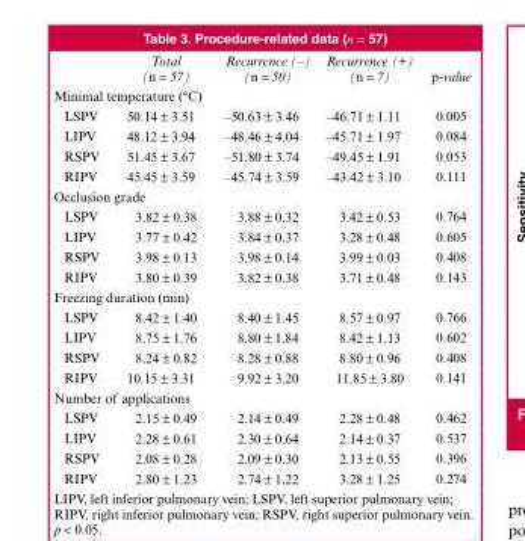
<table><thead><tr><td></td><td>Total (n = 57)</td><td>Recurrence (–) (n = 50)</td><td>Recurrence (+) (n = 7)</td><td>p-value</td></tr></thead><tbody><tr><td colspan="5">Minimal temperature (°C)</td></tr><tr><td>LSPV</td><td>50.14 ± 3.51</td><td>–50.63 ± 3.46</td><td>–46.71 ± 1.11</td><td>0.005</td></tr><tr><td>LIPV</td><td>48.12 ± 3.94</td><td>–48.46 ± 4.04</td><td>–45.71 ± 1.97</td><td>0.084</td></tr><tr><td>RSPV</td><td>51.45 ± 3.67</td><td>–51.80 ± 3.74</td><td>–49.45 ± 1.91</td><td>0.053</td></tr><tr><td>RIPV</td><td>45.45 ± 3.59</td><td>–45.74 ± 3.59</td><td>–43.42 ± 3.10</td><td>0.111</td></tr><tr><td colspan="5">Occlusion grade</td></tr><tr><td>LSPV</td><td>3.82 ± 0.38</td><td>3.88 ± 0.32</td><td>3.42 ± 0.53</td><td>0.764</td></tr><tr><td>LIPV</td><td>3.77 ± 0.42</td><td>3.84 ± 0.37</td><td>3.28 ± 0.48</td><td>0.605</td></tr><tr><td>RSPV</td><td>3.98 ± 0.13</td><td>3.98 ± 0.14</td><td>3.99 ± 0.03</td><td>0.408</td></tr><tr><td>RIPV</td><td>3.80 ± 0.39</td><td>3.82 ± 0.38</td><td>3.71 ± 0.48</td><td>0.143</td></tr><tr><td colspan="5">Freezing duration (min)</td></tr><tr><td>LSPV</td><td>8.42 ± 1.40</td><td>8.40 ± 1.45</td><td>8.57 ± 0.97</td><td>0.766</td></tr><tr><td>LIPV</td><td>8.75 ± 1.76</td><td>8.80 ± 1.84</td><td>8.42 ± 1.13</td><td>0.602</td></tr><tr><td>RSPV</td><td>8.24 ± 0.82</td><td>8.28 ± 0.88</td><td>8.80 ± 0.96</td><td>0.408</td></tr><tr><td>RIPV</td><td>10.15 ± 3.31</td><td>9.92 ± 3.20</td><td>11.85 ± 3.80</td><td>0.141</td></tr><tr><td colspan="5">Number of applications</td></tr><tr><td>LSPV</td><td>2.15 ± 0.49</td><td>2.14 ± 0.49</td><td>2.28 ± 0.48</td><td>0.462</td></tr><tr><td>LIPV</td><td>2.28 ± 0.61</td><td>2.30 ± 0.64</td><td>2.14 ± 0.37</td><td>0.537</td></tr><tr><td>RSPV</td><td>2.08 ± 0.28</td><td>2.09 ± 0.30</td><td>2.13 ± 0.55</td><td>0.396</td></tr><tr><td>RIPV</td><td>2.80 ± 1.23</td><td>2.74 ± 1.22</td><td>3.28 ± 1.25</td><td>0.274</td></tr></tbody></table>